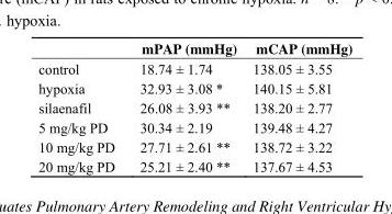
<table><thead><tr><td></td><td>mPAP (mmHg)</td><td>mCAP (mmHg)</td></tr></thead><tbody><tr><td>control</td><td>18.74 ± 1.74</td><td>138.05 ± 3.55</td></tr><tr><td>hypoxia</td><td>32.93 ± 3.08 *</td><td>140.15 ± 5.81</td></tr><tr><td>silaenafil</td><td>26.08 ± 3.93 **</td><td>138.20 ± 2.77</td></tr><tr><td>5 mg/kg PD</td><td>30.34 ± 2.19</td><td>139.48 ± 4.27</td></tr><tr><td>10 mg/kg PD</td><td>27.71 ± 2.61 **</td><td>138.72 ± 3.22</td></tr><tr><td>20 mg/kg PD</td><td>25.21 ± 2.40 **</td><td>137.67 ± 4.53</td></tr></tbody></table>